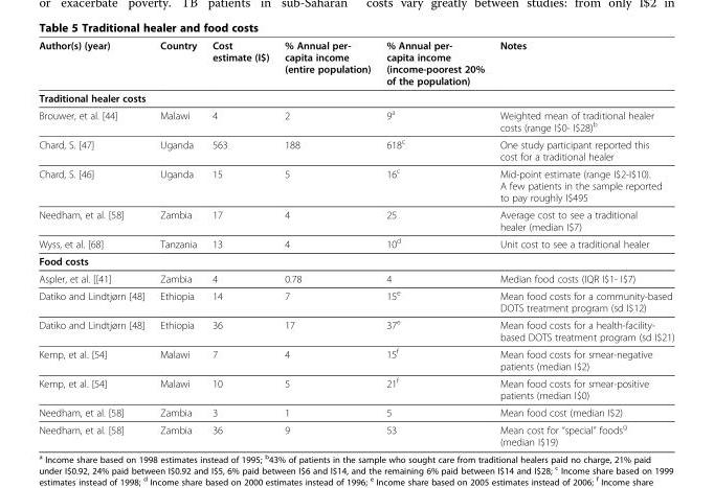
<table><thead><tr><td>Author(s) (year)</td><td>Country</td><td>Cost estimate (I$)</td><td>% Annual per- capita income (entire population)</td><td>% Annual per- capita income (income-poorest 20% of the population)</td><td>Notes</td></tr></thead><tbody><tr><td colspan="6">Traditional healer costs</td></tr><tr><td>Brouwer, et al. [44]</td><td>Malawi</td><td>4</td><td>2</td><td>9<sup>a</sup></td><td>Weighted mean of traditional healer costs (range I$0- I$28)<sup>b</sup></td></tr><tr><td>Chard, S. [47]</td><td>Uganda</td><td>563</td><td>188</td><td>618<sup>c</sup></td><td>One study participant reported this cost for a traditional healer</td></tr><tr><td>Chard, S. [46]</td><td>Uganda</td><td>15</td><td>5</td><td>16<sup>c</sup></td><td>Mid-point estimate (range I$2-I$10). A few patients in the sample reported to pay roughly I$495</td></tr><tr><td>Needham, et al. [58]</td><td>Zambia</td><td>17</td><td>4</td><td>25</td><td>Average cost to see a traditional healer (median I$7)</td></tr><tr><td>Wyss, et al. [68]</td><td>Tanzania</td><td>13</td><td>4</td><td>10<sup>d</sup></td><td>Unit cost to see a traditional healer</td></tr><tr><td colspan="6">Food costs</td></tr><tr><td>Aspler, et al. [[41]</td><td>Zambia</td><td>4</td><td>0.78</td><td>4</td><td>Median food costs (IQR I$1- I$7)</td></tr><tr><td>Datiko and Lindtjørn [48]</td><td>Ethiopia</td><td>14</td><td>7</td><td>15<sup>e</sup></td><td>Mean food costs for a community-based DOTS treatment program (sd I$12)</td></tr><tr><td>Datiko and Lindtjørn [48]</td><td>Ethiopia</td><td>36</td><td>17</td><td>37<sup>e</sup></td><td>Mean food costs for a health-facility- based DOTS treatment program (sd I$21)</td></tr><tr><td>Kemp, et al. [54]</td><td>Malawi</td><td>7</td><td>4</td><td>15<sup>f</sup></td><td>Mean food costs for smear-negative patients (median I$2)</td></tr><tr><td>Kemp, et al. [54]</td><td>Malawi</td><td>10</td><td>5</td><td>21<sup>f</sup></td><td>Mean food costs for smear-positive patients (median I$0)</td></tr><tr><td>Needham, et al. [58]</td><td>Zambia</td><td>3</td><td>1</td><td>5</td><td>Mean food cost (median I$2)</td></tr><tr><td>Needham, et al. [58]</td><td>Zambia</td><td>36</td><td>9</td><td>53</td><td>Mean cost for “special” foods<sup>g</sup> (median I$19)</td></tr></tbody></table>